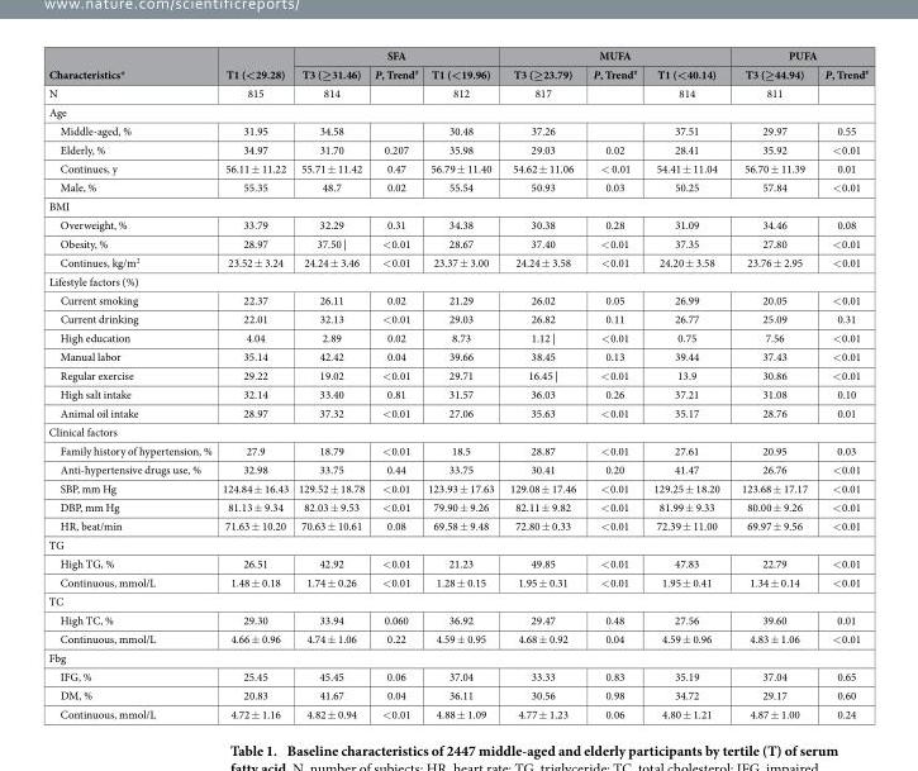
<table><thead><tr><td rowspan="2">Characteristics*</td><td rowspan="2">T1 (&lt;29.28)</td><td colspan="3">SFA</td><td colspan="3">MUFA</td><td colspan="2">PUFA</td></tr><tr><td>T3 (≥31.46)</td><td>P, Trend#</td><td>T1 (&lt;19.96)</td><td>T3 (≥23.79)</td><td>P, Trend#</td><td>T1 (&lt;40.14)</td><td>T3 (≥44.94)</td><td>P, Trend#</td></tr></thead><tbody><tr><td>N</td><td>815</td><td>814</td><td></td><td>812</td><td>817</td><td></td><td>814</td><td>811</td><td></td></tr><tr><td colspan="10">Age</td></tr><tr><td>Middle-aged, %</td><td>31.95</td><td>34.58</td><td></td><td>30.48</td><td>37.26</td><td></td><td>37.51</td><td>29.97</td><td>0.55</td></tr><tr><td>Elderly, %</td><td>34.97</td><td>31.70</td><td>0.207</td><td>35.98</td><td>29.03</td><td>0.02</td><td>28.41</td><td>35.92</td><td>&lt; 0.01</td></tr><tr><td>Continues, y</td><td>56.11 ± 11.22</td><td>55.71 ± 11.42</td><td>0.47</td><td>56.79 ± 11.40</td><td>54.62 ± 11.06</td><td>&lt; 0.01</td><td>54.41 ± 11.04</td><td>56.70 ± 11.39</td><td>0.01</td></tr><tr><td>Male, %</td><td>55.35</td><td>48.7</td><td>0.02</td><td>55.54</td><td>50.93</td><td>0.03</td><td>50.25</td><td>57.84</td><td>&lt; 0.01</td></tr><tr><td colspan="10">BMI</td></tr><tr><td>Overweight, %</td><td>33.79</td><td>32.29</td><td>0.31</td><td>34.38</td><td>30.38</td><td>0.28</td><td>31.09</td><td>34.46</td><td>0.08</td></tr><tr><td>Obesity, %</td><td>28.97</td><td>37.50 |</td><td>&lt; 0.01</td><td>28.67</td><td>37.40</td><td>&lt; 0.01</td><td>37.35</td><td>27.80</td><td>&lt; 0.01</td></tr><tr><td>Continues, kg/m<sup>2</sup></td><td>23.52 ± 3.24</td><td>24.24 ± 3.46</td><td>&lt; 0.01</td><td>23.37 ± 3.00</td><td>24.24 ± 3.58</td><td>&lt; 0.01</td><td>24.20 ± 3.58</td><td>23.76 ± 2.95</td><td>&lt; 0.01</td></tr><tr><td colspan="10">Lifestyle factors (%)</td></tr><tr><td>Current smoking</td><td>22.37</td><td>26.11</td><td>0.02</td><td>21.29</td><td>26.02</td><td>0.05</td><td>26.99</td><td>20.05</td><td>&lt; 0.01</td></tr><tr><td>Current drinking</td><td>22.01</td><td>32.13</td><td>&lt; 0.01</td><td>29.03</td><td>26.82</td><td>0.11</td><td>26.77</td><td>25.09</td><td>0.31</td></tr><tr><td>High education</td><td>4.04</td><td>2.89</td><td>0.02</td><td>8.73</td><td>1.12 |</td><td>&lt; 0.01</td><td>0.75</td><td>7.56</td><td>&lt; 0.01</td></tr><tr><td>Manual labor</td><td>35.14</td><td>42.42</td><td>0.04</td><td>39.66</td><td>38.45</td><td>0.13</td><td>39.44</td><td>37.43</td><td>&lt; 0.01</td></tr><tr><td>Regular exercise</td><td>29.22</td><td>19.02</td><td>&lt; 0.01</td><td>29.71</td><td>16.45 |</td><td>&lt; 0.01</td><td>13.9</td><td>30.86</td><td>&lt; 0.01</td></tr><tr><td>High salt intake</td><td>32.14</td><td>33.40</td><td>0.81</td><td>31.57</td><td>36.03</td><td>0.26</td><td>37.21</td><td>31.08</td><td>0.10</td></tr><tr><td>Animal oil intake</td><td>28.97</td><td>37.32</td><td>&lt; 0.01</td><td>27.06</td><td>35.63</td><td>&lt; 0.01</td><td>35.17</td><td>28.76</td><td>0.01</td></tr><tr><td colspan="10">Clinical factors</td></tr><tr><td>Family history of hypertension, %</td><td>27.9</td><td>18.79</td><td>&lt; 0.01</td><td>18.5</td><td>28.87</td><td>&lt; 0.01</td><td>27.61</td><td>20.95</td><td>0.03</td></tr><tr><td>Anti-hypertensive drugs use, %</td><td>32.98</td><td>33.75</td><td>0.44</td><td>33.75</td><td>30.41</td><td>0.20</td><td>41.47</td><td>26.76</td><td>&lt; 0.01</td></tr><tr><td>SBP, mm Hg</td><td>124.84 ± 16.43</td><td>129.52 ± 18.78</td><td>&lt; 0.01</td><td>123.93 ± 17.63</td><td>129.08 ± 17.46</td><td>&lt; 0.01</td><td>129.25 ± 18.20</td><td>123.68 ± 17.17</td><td>&lt; 0.01</td></tr><tr><td>DBP, mm Hg</td><td>81.13 ± 9.34</td><td>82.03 ± 9.53</td><td>&lt; 0.01</td><td>79.90 ± 9.26</td><td>82.11 ± 9.82</td><td>&lt; 0.01</td><td>81.99 ± 9.33</td><td>80.00 ± 9.26</td><td>&lt; 0.01</td></tr><tr><td>HR, beat/min</td><td>71.63 ± 10.20</td><td>70.63 ± 10.61</td><td>0.08</td><td>69.58 ± 9.48</td><td>72.80 ± 0.33</td><td>&lt; 0.01</td><td>72.39 ± 11.00</td><td>69.97 ± 9.56</td><td>&lt; 0.01</td></tr><tr><td colspan="10">TG</td></tr><tr><td>High TG, %</td><td>26.51</td><td>42.92</td><td>&lt; 0.01</td><td>21.23</td><td>49.85</td><td>&lt; 0.01</td><td>47.83</td><td>22.79</td><td>&lt; 0.01</td></tr><tr><td>Continuous, mmol/L</td><td>1.48 ± 0.18</td><td>1.74 ± 0.26</td><td>&lt; 0.01</td><td>1.28 ± 0.15</td><td>1.95 ± 0.31</td><td>&lt; 0.01</td><td>1.95 ± 0.41</td><td>1.34 ± 0.14</td><td>&lt; 0.01</td></tr><tr><td colspan="10">TC</td></tr><tr><td>High TC, %</td><td>29.30</td><td>33.94</td><td>0.060</td><td>36.92</td><td>29.47</td><td>0.48</td><td>27.56</td><td>39.60</td><td>0.01</td></tr><tr><td>Continuous, mmol/L</td><td>4.66 ± 0.96</td><td>4.74 ± 1.06</td><td>0.22</td><td>4.59 ± 0.95</td><td>4.68 ± 0.92</td><td>0.04</td><td>4.59 ± 0.96</td><td>4.83 ± 1.06</td><td>&lt; 0.01</td></tr><tr><td colspan="10">Fbg</td></tr><tr><td>IFG, %</td><td>25.45</td><td>45.45</td><td>0.06</td><td>37.04</td><td>33.33</td><td>0.83</td><td>35.19</td><td>37.04</td><td>0.65</td></tr><tr><td>DM, %</td><td>20.83</td><td>41.67</td><td>0.04</td><td>36.11</td><td>30.56</td><td>0.98</td><td>34.72</td><td>29.17</td><td>0.60</td></tr><tr><td>Continuous, mmol/L</td><td>4.72 ± 1.16</td><td>4.82 ± 0.94</td><td>&lt; 0.01</td><td>4.88 ± 1.09</td><td>4.77 ± 1.23</td><td>0.06</td><td>4.80 ± 1.21</td><td>4.87 ± 1.00</td><td>0.24</td></tr></tbody></table>